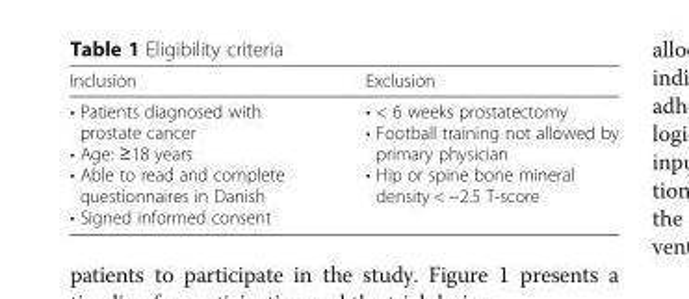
<table><thead><tr><td>Inclusion</td><td>Exclusion</td></tr></thead><tbody><tr><td>• Patients diagnosed with prostate cancer • Age: ≥18 years • Able to read and complete questionnaires in Danish • Signed informed consent</td><td>• &lt; 6 weeks prostatectomy • Football training not allowed by primary physician • Hip or spine bone mineral density &lt; −2.5 T-score</td></tr></tbody></table>